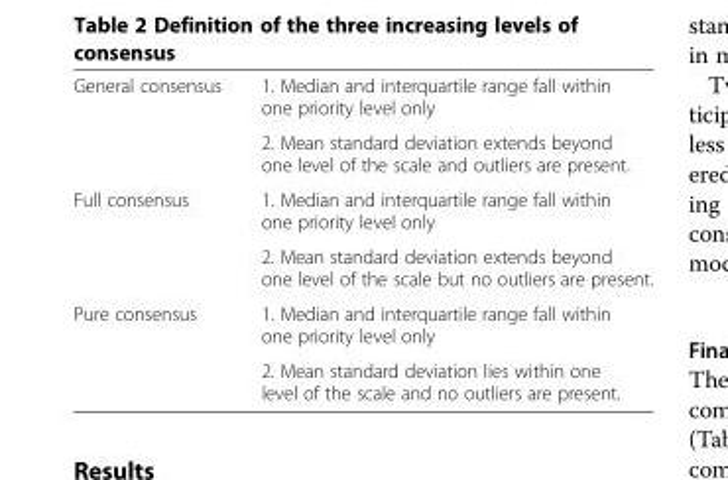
<table><tbody><tr><td rowspan="2">General consensus</td><td>1. Median and interquartile range fall within one priority level only</td></tr><tr><td>2. Mean standard deviation extends beyond one level of the scale and outliers are present.</td></tr><tr><td rowspan="2">Full consensus</td><td>1. Median and interquartile range fall within one priority level only</td></tr><tr><td>2. Mean standard deviation extends beyond one level of the scale but no outliers are present.</td></tr><tr><td rowspan="2">Pure consensus</td><td>1. Median and interquartile range fall within one priority level only</td></tr><tr><td>2. Mean standard deviation lies within one level of the scale and no outliers are present.</td></tr></tbody></table>